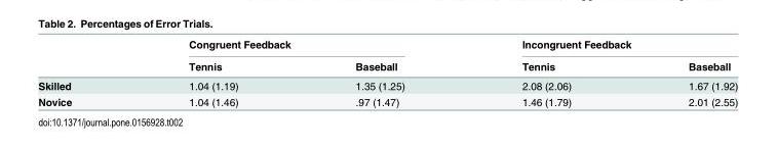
<table><thead><tr><td rowspan="2"></td><td colspan="2">Congruent Feedback</td><td colspan="2">Incongruent Feedback</td></tr><tr><td>Tennis</td><td>Baseball</td><td>Tennis</td><td>Baseball</td></tr></thead><tbody><tr><td>Skilled</td><td>1.04 (1.19)</td><td>1.35 (1.25)</td><td>2.08 (2.06)</td><td>1.67 (1.92)</td></tr><tr><td>Novice</td><td>1.04 (1.46)</td><td>.97 (1.47)</td><td>1.46 (1.79)</td><td>2.01 (2.55)</td></tr></tbody></table>